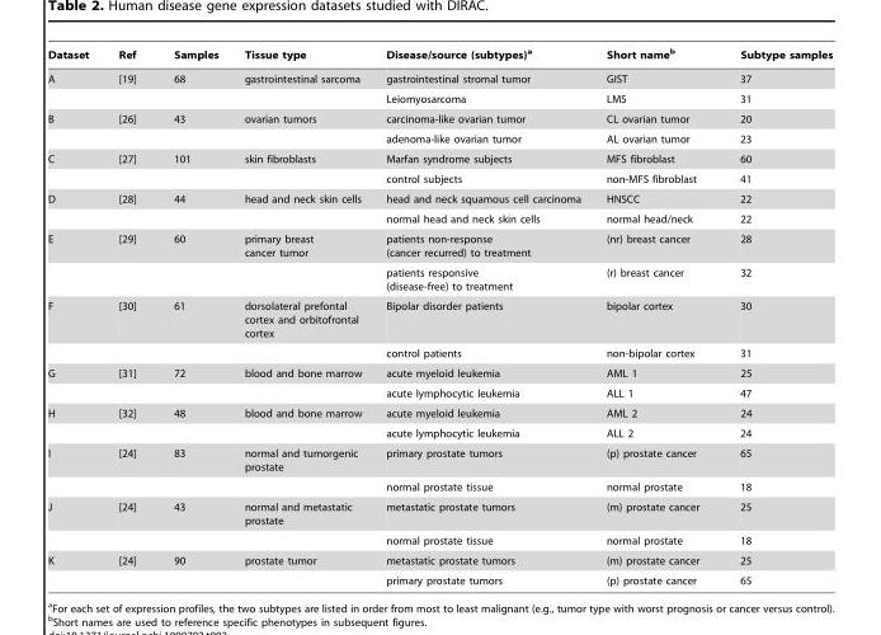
<table><thead><tr><td>Dataset</td><td>Ref</td><td>Samples</td><td>Tissue type</td><td>Disease/source (subtypes)<sup>a</sup></td><td>Short name<sup>b</sup></td><td>Subtype samples</td></tr></thead><tbody><tr><td rowspan="2">A</td><td>[19]</td><td>68</td><td>gastrointestinal sarcoma</td><td>gastrointestinal stromal tumor</td><td>GIST</td><td>37</td></tr><tr><td></td><td></td><td></td><td>Leiomyosarcoma</td><td>LMS</td><td>31</td></tr><tr><td rowspan="2">B</td><td>[26]</td><td>43</td><td>ovarian tumors</td><td>carcinoma-like ovarian tumor</td><td>CL ovarian tumor</td><td>20</td></tr><tr><td></td><td></td><td></td><td>adenoma-like ovarian tumor</td><td>AL ovarian tumor</td><td>23</td></tr><tr><td rowspan="2">C</td><td>[27]</td><td>101</td><td>skin fibroblasts</td><td>Marfan syndrome subjects</td><td>MFS fibroblast</td><td>60</td></tr><tr><td></td><td></td><td></td><td>control subjects</td><td>non-MFS fibroblast</td><td>41</td></tr><tr><td rowspan="2">D</td><td>[28]</td><td>44</td><td>head and neck skin cells</td><td>head and neck squamous cell carcinoma</td><td>HNSCC</td><td>22</td></tr><tr><td></td><td></td><td></td><td>normal head and neck skin cells</td><td>normal head/neck</td><td>22</td></tr><tr><td rowspan="2">E</td><td>[29]</td><td>60</td><td>primary breast cancer tumor</td><td>patients non-response (cancer recurred) to treatment</td><td>(nr) breast cancer</td><td>28</td></tr><tr><td></td><td></td><td></td><td>patients responsive (disease-free) to treatment</td><td>(r) breast cancer</td><td>32</td></tr><tr><td rowspan="2">F</td><td>[30]</td><td>61</td><td>dorsolateral prefontal cortex and orbitofrontal cortex</td><td>Bipolar disorder patients</td><td>bipolar cortex</td><td>30</td></tr><tr><td></td><td></td><td></td><td>control patients</td><td>non-bipolar cortex</td><td>31</td></tr><tr><td rowspan="2">G</td><td>[31]</td><td>72</td><td>blood and bone marrow</td><td>acute myeloid leukemia</td><td>AML 1</td><td>25</td></tr><tr><td></td><td></td><td></td><td>acute lymphocytic leukemia</td><td>ALL 1</td><td>47</td></tr><tr><td rowspan="2">H</td><td>[32]</td><td>48</td><td>blood and bone marrow</td><td>acute myeloid leukemia</td><td>AML 2</td><td>24</td></tr><tr><td></td><td></td><td></td><td>acute lymphocytic leukemia</td><td>ALL 2</td><td>24</td></tr><tr><td rowspan="2">I</td><td>[24]</td><td>83</td><td>normal and tumorgenic prostate</td><td>primary prostate tumors</td><td>(p) prostate cancer</td><td>65</td></tr><tr><td></td><td></td><td></td><td>normal prostate tissue</td><td>normal prostate</td><td>18</td></tr><tr><td rowspan="2">J</td><td>[24]</td><td>43</td><td>normal and metastatic prostate</td><td>metastatic prostate tumors</td><td>(m) prostate cancer</td><td>25</td></tr><tr><td></td><td></td><td></td><td>normal prostate tissue</td><td>normal prostate</td><td>18</td></tr><tr><td rowspan="2">K</td><td>[24]</td><td>90</td><td>prostate tumor</td><td>metastatic prostate tumors</td><td>(m) prostate cancer</td><td>25</td></tr><tr><td></td><td></td><td></td><td>primary prostate tumors</td><td>(p) prostate cancer</td><td>65</td></tr></tbody></table>